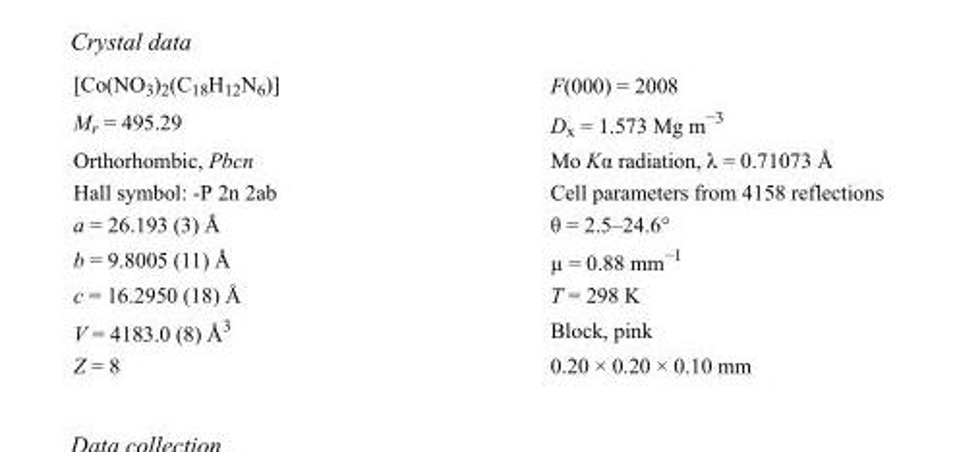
<table><tbody><tr><td>[Co(NO<sub>3</sub>)<sub>2</sub>(C<sub>18</sub>H<sub>12</sub>N<sub>6</sub>)]</td><td>F(000) = 2008</td></tr><tr><td>M<sub>r</sub> = 495.29</td><td>D<sub>x</sub> = 1.573 Mg m<sup>−3</sup></td></tr><tr><td>Orthorhombic, Pbcn</td><td>Mo Kα radiation, λ = 0.71073 Å</td></tr><tr><td>Hall symbol: -P 2n 2ab</td><td>Cell parameters from 4158 reflections</td></tr><tr><td>a = 26.193 (3) Å</td><td>θ = 2.5–24.6°</td></tr><tr><td>b = 9.8005 (11) Å</td><td>µ = 0.88 mm<sup>−1</sup></td></tr><tr><td>c = 16.2950 (18) Å</td><td>T = 298 K</td></tr><tr><td>V = 4183.0 (8) Å<sup>3</sup></td><td>Block, pink</td></tr><tr><td>Z = 8</td><td>0.20 × 0.20 × 0.10 mm</td></tr></tbody></table>